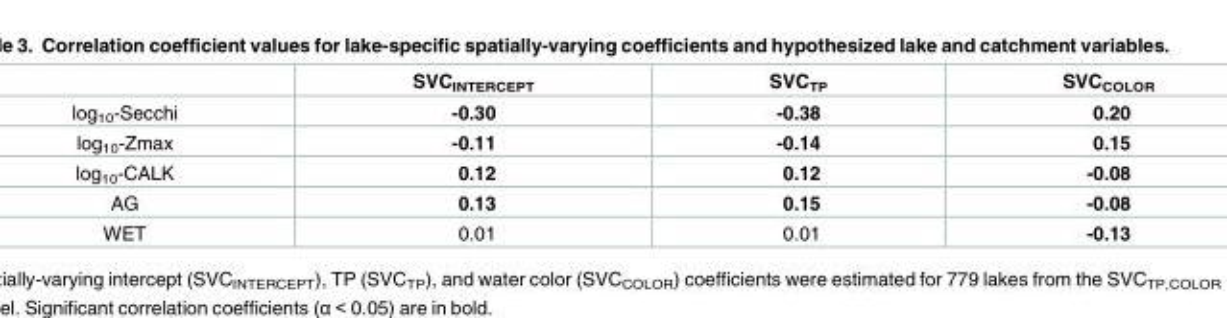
<table><thead><tr><td></td><td>SVC<sub>INTERCEPT</sub></td><td>SVC<sub>TP</sub></td><td>SVC<sub>COLOR</sub></td></tr></thead><tbody><tr><td>log<sub>10</sub>-Secchi</td><td>-0.30</td><td>-0.38</td><td>0.20</td></tr><tr><td>log<sub>10</sub>-Zmax</td><td>-0.11</td><td>-0.14</td><td>0.15</td></tr><tr><td>log<sub>10</sub>-CALK</td><td>0.12</td><td>0.12</td><td>-0.08</td></tr><tr><td>AG</td><td>0.13</td><td>0.15</td><td>-0.08</td></tr><tr><td>WET</td><td>0.01</td><td>0.01</td><td>-0.13</td></tr></tbody></table>